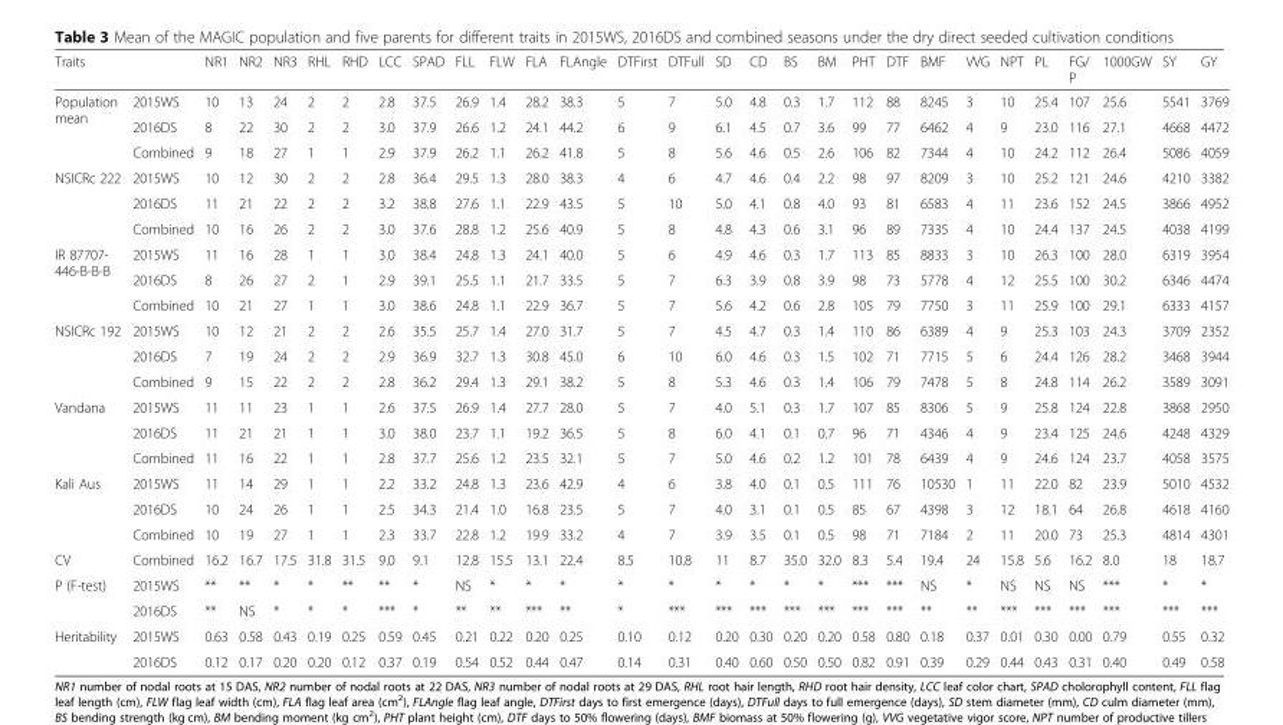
<table><thead><tr><td>Traits</td><td></td><td>NR1</td><td>NR2</td><td>NR3</td><td>RHL</td><td>RHD</td><td>LCC</td><td>SPAD</td><td>FLL</td><td>FLW</td><td>FLA</td><td>FLAngle</td><td>DTFirst</td><td>DTFull</td><td>SD</td><td>CD</td><td>BS</td><td>BM</td><td>PHT</td><td>DTF</td><td>BMF</td><td>VVG</td><td>NPT</td><td>PL</td><td>FG/ P</td><td>1000GW</td><td>SY</td><td>GY</td></tr></thead><tbody><tr><td rowspan="3">Population mean</td><td>2015WS</td><td>10</td><td>13</td><td>24</td><td>2</td><td>2</td><td>2.8</td><td>37.5</td><td>26.9</td><td>1.4</td><td>28.2</td><td>38.3</td><td>5</td><td>7</td><td>5.0</td><td>4.8</td><td>0.3</td><td>1.7</td><td>112</td><td>88</td><td>8245</td><td>3</td><td>10</td><td>25.4</td><td>107</td><td>25.6</td><td>5541</td><td>3769</td></tr><tr><td>2016DS</td><td>8</td><td>22</td><td>30</td><td>2</td><td>2</td><td>3.0</td><td>37.9</td><td>26.6</td><td>1.2</td><td>24.1</td><td>44.2</td><td>6</td><td>9</td><td>6.1</td><td>4.5</td><td>0.7</td><td>3.6</td><td>99</td><td>77</td><td>6462</td><td>4</td><td>9</td><td>23.0</td><td>116</td><td>27.1</td><td>4668</td><td>4472</td></tr><tr><td>Combined</td><td>9</td><td>18</td><td>27</td><td>1</td><td>1</td><td>2.9</td><td>37.9</td><td>26.2</td><td>1.1</td><td>26.2</td><td>41.8</td><td>5</td><td>8</td><td>5.6</td><td>4.6</td><td>0.5</td><td>2.6</td><td>106</td><td>82</td><td>7344</td><td>4</td><td>10</td><td>24.2</td><td>112</td><td>26.4</td><td>5086</td><td>4059</td></tr><tr><td rowspan="3">NSICRc 222</td><td>2015WS</td><td>10</td><td>12</td><td>30</td><td>2</td><td>2</td><td>2.8</td><td>36.4</td><td>29.5</td><td>1.3</td><td>28.0</td><td>38.3</td><td>4</td><td>6</td><td>4.7</td><td>4.6</td><td>0.4</td><td>2.2</td><td>98</td><td>97</td><td>8209</td><td>3</td><td>10</td><td>25.2</td><td>121</td><td>24.6</td><td>4210</td><td>3382</td></tr><tr><td>2016DS</td><td>11</td><td>21</td><td>22</td><td>2</td><td>2</td><td>3.2</td><td>38.8</td><td>27.6</td><td>1.1</td><td>22.9</td><td>43.5</td><td>5</td><td>10</td><td>5.0</td><td>4.1</td><td>0.8</td><td>4.0</td><td>93</td><td>81</td><td>6583</td><td>4</td><td>11</td><td>23.6</td><td>152</td><td>24.5</td><td>3866</td><td>4952</td></tr><tr><td>Combined</td><td>10</td><td>16</td><td>26</td><td>2</td><td>2</td><td>3.0</td><td>37.6</td><td>28.8</td><td>1.2</td><td>25.6</td><td>40.9</td><td>5</td><td>8</td><td>4.8</td><td>4.3</td><td>0.6</td><td>3.1</td><td>96</td><td>89</td><td>7335</td><td>4</td><td>10</td><td>24.4</td><td>137</td><td>24.5</td><td>4038</td><td>4199</td></tr><tr><td rowspan="3">IR 87707- 446-B-B-B</td><td>2015WS</td><td>11</td><td>16</td><td>28</td><td>1</td><td>1</td><td>3.0</td><td>38.4</td><td>24.8</td><td>1.3</td><td>24.1</td><td>40.0</td><td>5</td><td>6</td><td>4.9</td><td>4.6</td><td>0.3</td><td>1.7</td><td>113</td><td>85</td><td>8833</td><td>3</td><td>10</td><td>26.3</td><td>100</td><td>28.0</td><td>6319</td><td>3954</td></tr><tr><td>2016DS</td><td>8</td><td>26</td><td>27</td><td>2</td><td>1</td><td>2.9</td><td>39.1</td><td>25.5</td><td>1.1</td><td>21.7</td><td>33.5</td><td>5</td><td>7</td><td>6.3</td><td>3.9</td><td>0.8</td><td>3.9</td><td>98</td><td>73</td><td>5778</td><td>4</td><td>12</td><td>25.5</td><td>100</td><td>30.2</td><td>6346</td><td>4474</td></tr><tr><td>Combined</td><td>10</td><td>21</td><td>27</td><td>1</td><td>1</td><td>3.0</td><td>38.6</td><td>24.8</td><td>1.1</td><td>22.9</td><td>36.7</td><td>5</td><td>7</td><td>5.6</td><td>4.2</td><td>0.6</td><td>2.8</td><td>105</td><td>79</td><td>7750</td><td>3</td><td>11</td><td>25.9</td><td>100</td><td>29.1</td><td>6333</td><td>4157</td></tr><tr><td rowspan="3">NSICRc 192</td><td>2015WS</td><td>10</td><td>12</td><td>21</td><td>2</td><td>2</td><td>2.6</td><td>35.5</td><td>25.7</td><td>1.4</td><td>27.0</td><td>31.7</td><td>5</td><td>7</td><td>4.5</td><td>4.7</td><td>0.3</td><td>1.4</td><td>110</td><td>86</td><td>6389</td><td>4</td><td>9</td><td>25.3</td><td>103</td><td>24.3</td><td>3709</td><td>2352</td></tr><tr><td>2016DS</td><td>7</td><td>19</td><td>24</td><td>2</td><td>2</td><td>2.9</td><td>36.9</td><td>32.7</td><td>1.3</td><td>30.8</td><td>45.0</td><td>6</td><td>10</td><td>6.0</td><td>4.6</td><td>0.3</td><td>1.5</td><td>102</td><td>71</td><td>7715</td><td>5</td><td>6</td><td>24.4</td><td>126</td><td>28.2</td><td>3468</td><td>3944</td></tr><tr><td>Combined</td><td>9</td><td>15</td><td>22</td><td>2</td><td>2</td><td>2.8</td><td>36.2</td><td>29.4</td><td>1.3</td><td>29.1</td><td>38.2</td><td>5</td><td>8</td><td>5.3</td><td>4.6</td><td>0.3</td><td>1.4</td><td>106</td><td>79</td><td>7478</td><td>5</td><td>8</td><td>24.8</td><td>114</td><td>26.2</td><td>3589</td><td>3091</td></tr><tr><td rowspan="3">Vandana</td><td>2015WS</td><td>11</td><td>11</td><td>23</td><td>1</td><td>1</td><td>2.6</td><td>37.5</td><td>26.9</td><td>1.4</td><td>27.7</td><td>28.0</td><td>5</td><td>7</td><td>4.0</td><td>5.1</td><td>0.3</td><td>1.7</td><td>107</td><td>85</td><td>8306</td><td>5</td><td>9</td><td>25.8</td><td>124</td><td>22.8</td><td>3868</td><td>2950</td></tr><tr><td>2016DS</td><td>11</td><td>21</td><td>21</td><td>1</td><td>1</td><td>3.0</td><td>38.0</td><td>23.7</td><td>1.1</td><td>19.2</td><td>36.5</td><td>5</td><td>8</td><td>6.0</td><td>4.1</td><td>0.1</td><td>0.7</td><td>96</td><td>71</td><td>4346</td><td>4</td><td>9</td><td>23.4</td><td>125</td><td>24.6</td><td>4248</td><td>4329</td></tr><tr><td>Combined</td><td>11</td><td>16</td><td>22</td><td>1</td><td>1</td><td>2.8</td><td>37.7</td><td>25.6</td><td>1.2</td><td>23.5</td><td>32.1</td><td>5</td><td>7</td><td>5.0</td><td>4.6</td><td>0.2</td><td>1.2</td><td>101</td><td>78</td><td>6439</td><td>4</td><td>9</td><td>24.6</td><td>124</td><td>23.7</td><td>4058</td><td>3575</td></tr><tr><td rowspan="3">Kali Aus</td><td>2015WS</td><td>11</td><td>14</td><td>29</td><td>1</td><td>1</td><td>2.2</td><td>33.2</td><td>24.8</td><td>1.3</td><td>23.6</td><td>42.9</td><td>4</td><td>6</td><td>3.8</td><td>4.0</td><td>0.1</td><td>0.5</td><td>111</td><td>76</td><td>10530</td><td>1</td><td>11</td><td>22.0</td><td>82</td><td>23.9</td><td>5010</td><td>4532</td></tr><tr><td>2016DS</td><td>10</td><td>24</td><td>26</td><td>1</td><td>1</td><td>2.5</td><td>34.3</td><td>21.4</td><td>1.0</td><td>16.8</td><td>23.5</td><td>5</td><td>7</td><td>4.0</td><td>3.1</td><td>0.1</td><td>0.5</td><td>85</td><td>67</td><td>4398</td><td>3</td><td>12</td><td>18.1</td><td>64</td><td>26.8</td><td>4618</td><td>4160</td></tr><tr><td>Combined</td><td>10</td><td>19</td><td>27</td><td>1</td><td>1</td><td>2.3</td><td>33.7</td><td>22.8</td><td>1.2</td><td>19.9</td><td>33.2</td><td>4</td><td>7</td><td>3.9</td><td>3.5</td><td>0.1</td><td>0.5</td><td>98</td><td>71</td><td>7184</td><td>2</td><td>11</td><td>20.0</td><td>73</td><td>25.3</td><td>4814</td><td>4301</td></tr><tr><td>CV</td><td>Combined</td><td>16.2</td><td>16.7</td><td>17.5</td><td>31.8</td><td>31.5</td><td>9.0</td><td>9.1</td><td>12.8</td><td>15.5</td><td>13.1</td><td>22.4</td><td>8.5</td><td>10.8</td><td>11</td><td>8.7</td><td>35.0</td><td>32.0</td><td>8.3</td><td>5.4</td><td>19.4</td><td>24</td><td>15.8</td><td>5.6</td><td>16.2</td><td>8.0</td><td>18</td><td>18.7</td></tr><tr><td rowspan="2">P (F-test)</td><td>2015WS</td><td>**</td><td>**</td><td>*</td><td>*</td><td>**</td><td>**</td><td>*</td><td>NS</td><td>*</td><td>*</td><td>*</td><td>*</td><td>*</td><td>*</td><td>*</td><td>*</td><td>*</td><td>***</td><td>***</td><td>NS</td><td>*</td><td>NS</td><td>NS</td><td>NS</td><td>***</td><td>*</td><td>*</td></tr><tr><td>2016DS</td><td>**</td><td>NS</td><td>*</td><td>*</td><td>*</td><td>***</td><td>*</td><td>**</td><td>**</td><td>***</td><td>**</td><td>*</td><td>***</td><td>***</td><td>***</td><td>***</td><td>***</td><td>***</td><td>***</td><td>**</td><td>**</td><td>***</td><td>***</td><td>***</td><td>***</td><td>***</td><td>***</td></tr><tr><td rowspan="2">Heritability</td><td>2015WS</td><td>0.63</td><td>0.58</td><td>0.43</td><td>0.19</td><td>0.25</td><td>0.59</td><td>0.45</td><td>0.21</td><td>0.22</td><td>0.20</td><td>0.25</td><td>0.10</td><td>0.12</td><td>0.20</td><td>0.30</td><td>0.20</td><td>0.20</td><td>0.58</td><td>0.80</td><td>0.18</td><td>0.37</td><td>0.01</td><td>0.30</td><td>0.00</td><td>0.79</td><td>0.55</td><td>0.32</td></tr><tr><td>2016DS</td><td>0.12</td><td>0.17</td><td>0.20</td><td>0.20</td><td>0.12</td><td>0.37</td><td>0.19</td><td>0.54</td><td>0.52</td><td>0.44</td><td>0.47</td><td>0.14</td><td>0.31</td><td>0.40</td><td>0.60</td><td>0.50</td><td>0.50</td><td>0.82</td><td>0.91</td><td>0.39</td><td>0.29</td><td>0.44</td><td>0.43</td><td>0.31</td><td>0.40</td><td>0.49</td><td>0.58</td></tr></tbody></table>